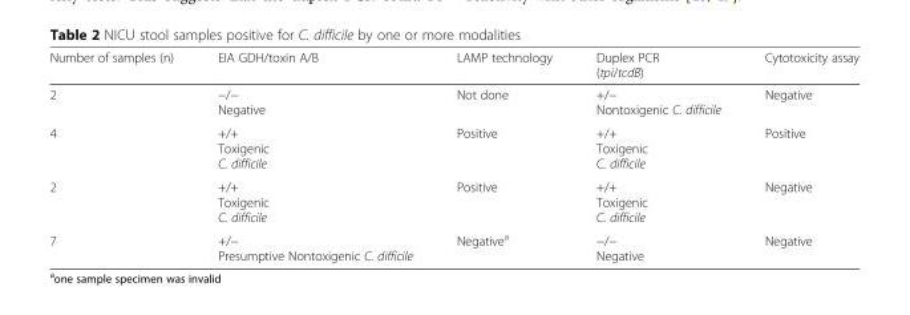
<table><thead><tr><td>Number of samples (n)</td><td>EIA GDH/toxin A/B</td><td>LAMP technology</td><td>Duplex PCR (tpi/tcdB)</td><td>Cytotoxicity assay</td></tr></thead><tbody><tr><td>2</td><td>−/− Negative</td><td>Not done</td><td>+/− Nontoxigenic C. difficile</td><td>Negative</td></tr><tr><td>4</td><td>+/+ Toxigenic C. difficile</td><td>Positive</td><td>+/+ Toxigenic C. difficile</td><td>Positive</td></tr><tr><td>2</td><td>+/+ Toxigenic C. difficile</td><td>Positive</td><td>+/+ Toxigenic C. difficile</td><td>Negative</td></tr><tr><td>7</td><td>+/− Presumptive Nontoxigenic C. difficile</td><td>Negative<sup>a</sup></td><td>−/− Negative</td><td>Negative</td></tr></tbody></table>